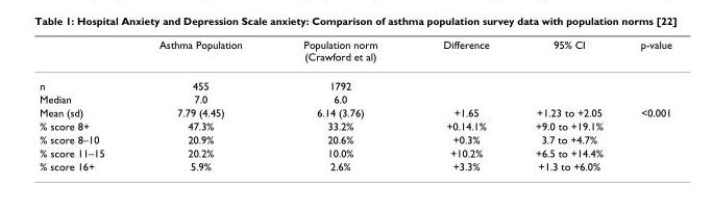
<table><thead><tr><td></td><td>Asthma Population</td><td>Population norm (Crawford et al)</td><td>Difference</td><td>95% CI</td><td>p-value</td></tr></thead><tbody><tr><td>n</td><td>455</td><td>1792</td><td></td><td></td><td></td></tr><tr><td>Median</td><td>7.0</td><td>6.0</td><td></td><td></td><td></td></tr><tr><td>Mean (sd)</td><td>7.79 (4.45)</td><td>6.14 (3.76)</td><td>+1.65</td><td>+1.23 to +2.05</td><td>&lt;0.001</td></tr><tr><td>% score 8+</td><td>47.3%</td><td>33.2%</td><td>+0.14.1%</td><td>+9.0 to +19.1%</td><td></td></tr><tr><td>% score 8–10</td><td>20.9%</td><td>20.6%</td><td>+0.3%</td><td>3.7 to +4.7%</td><td></td></tr><tr><td>% score 11–15</td><td>20.2%</td><td>10.0%</td><td>+10.2%</td><td>+6.5 to +14.4%</td><td></td></tr><tr><td>% score 16+</td><td>5.9%</td><td>2.6%</td><td>+3.3%</td><td>+1.3 to +6.0%</td><td></td></tr></tbody></table>